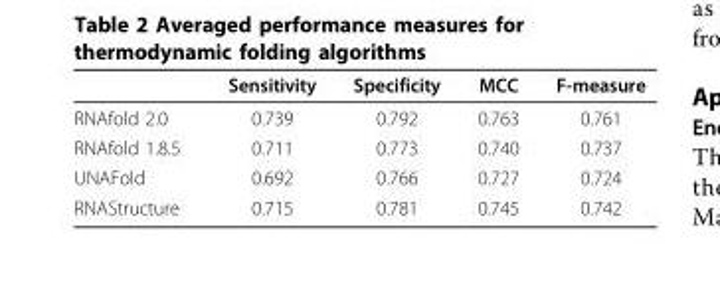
<table><thead><tr><td></td><td>Sensitivity</td><td>Specificity</td><td>MCC</td><td>F-measure</td></tr></thead><tbody><tr><td>RNAfold 2.0</td><td>0.739</td><td>0.792</td><td>0.763</td><td>0.761</td></tr><tr><td>RNAfold 1.8.5</td><td>0.711</td><td>0.773</td><td>0.740</td><td>0.737</td></tr><tr><td>UNAFold</td><td>0.692</td><td>0.766</td><td>0.727</td><td>0.724</td></tr><tr><td>RNAStructure</td><td>0.715</td><td>0.781</td><td>0.745</td><td>0.742</td></tr></tbody></table>